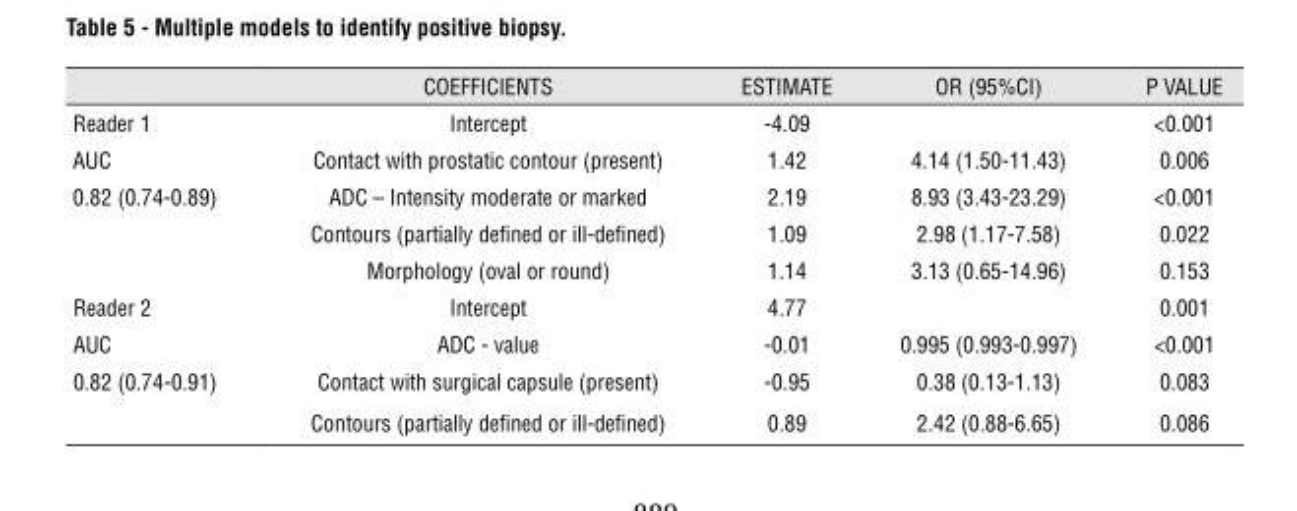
<table><thead><tr><td></td><td>COEFFICIENTS</td><td>ESTIMATE</td><td>OR (95%CI)</td><td>P VALUE</td></tr></thead><tbody><tr><td>Reader 1</td><td>Intercept</td><td>-4.09</td><td></td><td>&lt;0.001</td></tr><tr><td>AUC</td><td>Contact with prostatic contour (present)</td><td>1.42</td><td>4.14 (1.50-11.43)</td><td>0.006</td></tr><tr><td rowspan="3">0.82 (0.74-0.89)</td><td>ADC – Intensity moderate or marked</td><td>2.19</td><td>8.93 (3.43-23.29)</td><td>&lt;0.001</td></tr><tr><td>Contours (partially defined or ill-defined)</td><td>1.09</td><td>2.98 (1.17-7.58)</td><td>0.022</td></tr><tr><td>Morphology (oval or round)</td><td>1.14</td><td>3.13 (0.65-14.96)</td><td>0.153</td></tr><tr><td>Reader 2</td><td>Intercept</td><td>4.77</td><td></td><td>0.001</td></tr><tr><td>AUC</td><td>ADC - value</td><td>-0.01</td><td>0.995 (0.993-0.997)</td><td>&lt;0.001</td></tr><tr><td rowspan="2">0.82 (0.74-0.91)</td><td>Contact with surgical capsule (present)</td><td>-0.95</td><td>0.38 (0.13-1.13)</td><td>0.083</td></tr><tr><td>Contours (partially defined or ill-defined)</td><td>0.89</td><td>2.42 (0.88-6.65)</td><td>0.086</td></tr></tbody></table>